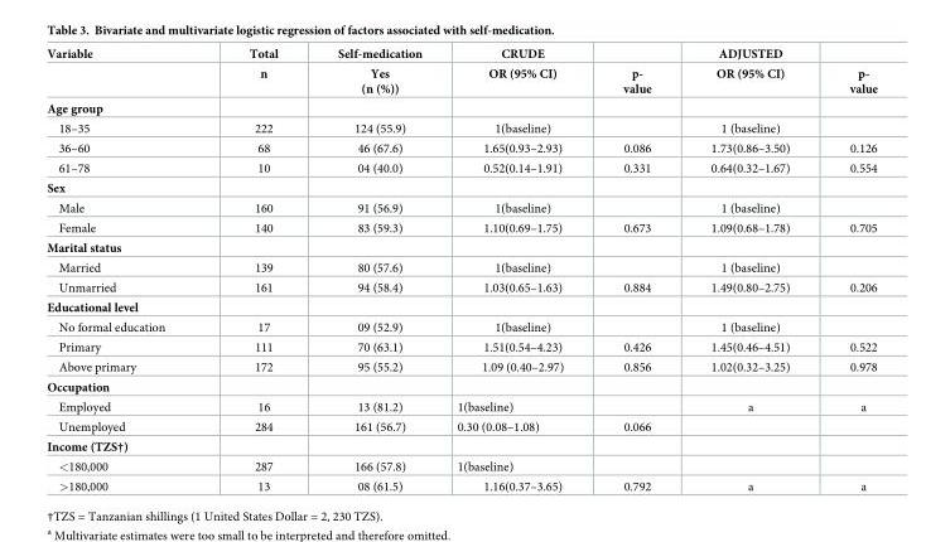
<table><thead><tr><td rowspan="2">Variable</td><td rowspan="2">Total n</td><td rowspan="2">Self-medication Yes (n (%))</td><td rowspan="2">CRUDE OR (95% CI)</td><td rowspan="2">p- value</td><td rowspan="2">ADJUSTED OR (95% CI)</td><td rowspan="2">p- value</td></tr><tr></tr></thead><tbody><tr><td colspan="7">Age group</td></tr><tr><td>18–35</td><td>222</td><td>124 (55.9)</td><td>1(baseline)</td><td></td><td>1 (baseline)</td><td></td></tr><tr><td>36–60</td><td>68</td><td>46 (67.6)</td><td>1.65(0.93–2.93)</td><td>0.086</td><td>1.73(0.86–3.50)</td><td>0.126</td></tr><tr><td>61–78</td><td>10</td><td>04 (40.0)</td><td>0.52(0.14–1.91)</td><td>0.331</td><td>0.64(0.32–1.67)</td><td>0.554</td></tr><tr><td colspan="7">Sex</td></tr><tr><td>Male</td><td>160</td><td>91 (56.9)</td><td>1(baseline)</td><td></td><td>1 (baseline)</td><td></td></tr><tr><td>Female</td><td>140</td><td>83 (59.3)</td><td>1.10(0.69–1.75)</td><td>0.673</td><td>1.09(0.68–1.78)</td><td>0.705</td></tr><tr><td colspan="7">Marital status</td></tr><tr><td>Married</td><td>139</td><td>80 (57.6)</td><td>1(baseline)</td><td></td><td>1 (baseline)</td><td></td></tr><tr><td>Unmarried</td><td>161</td><td>94 (58.4)</td><td>1.03(0.65–1.63)</td><td>0.884</td><td>1.49(0.80–2.75)</td><td>0.206</td></tr><tr><td colspan="7">Educational level</td></tr><tr><td>No formal education</td><td>17</td><td>09 (52.9)</td><td>1(baseline)</td><td></td><td>1 (baseline)</td><td></td></tr><tr><td>Primary</td><td>111</td><td>70 (63.1)</td><td>1.51(0.54–4.23)</td><td>0.426</td><td>1.45(0.46–4.51)</td><td>0.522</td></tr><tr><td>Above primary</td><td>172</td><td>95 (55.2)</td><td>1.09 (0.40–2.97)</td><td>0.856</td><td>1.02(0.32–3.25)</td><td>0.978</td></tr><tr><td colspan="7">Occupation</td></tr><tr><td>Employed</td><td>16</td><td>13 (81.2)</td><td>1(baseline)</td><td></td><td>a</td><td>a</td></tr><tr><td>Unemployed</td><td>284</td><td>161 (56.7)</td><td>0.30 (0.08–1.08)</td><td>0.066</td><td></td><td></td></tr><tr><td colspan="7">Income (TZS†)</td></tr><tr><td>&lt;180,000</td><td>287</td><td>166 (57.8)</td><td>1(baseline)</td><td></td><td></td><td></td></tr><tr><td>&gt;180,000</td><td>13</td><td>08 (61.5)</td><td>1.16(0.37–3.65)</td><td>0.792</td><td>a</td><td>a</td></tr></tbody></table>